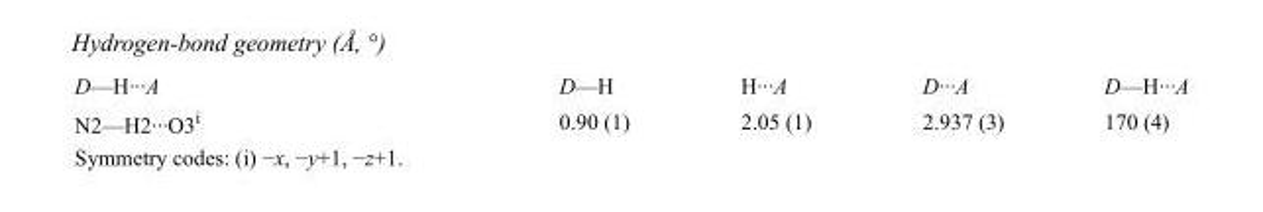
<table><tbody><tr><td>D—H···A</td><td>D—H</td><td>H···A</td><td>D···A</td><td>D—H···A</td></tr><tr><td>N2—H2···O3<sup>i</sup></td><td>0.90 (1)</td><td>2.05 (1)</td><td>2.937 (3)</td><td>170 (4)</td></tr></tbody></table>